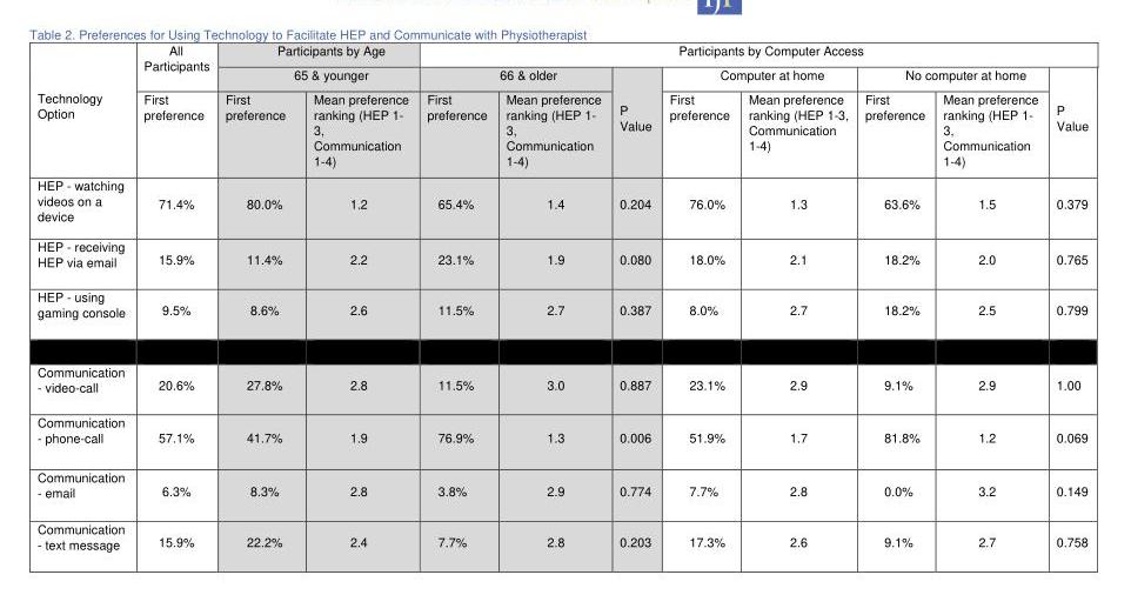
<table><thead><tr><td rowspan="3">Technology Option</td><td rowspan="3">All Participants First preference</td><td rowspan="2" colspan="2">Participants by Age 65 &amp; younger</td><td colspan="8">Participants by Computer Access</td></tr><tr><td colspan="2">66 &amp; older</td><td rowspan="2">P Value</td><td colspan="2">Computer at home</td><td colspan="2">No computer at home</td><td rowspan="2">P Value</td></tr><tr><td>First preference</td><td>Mean preference ranking (HEP 1- 3, Communication 1-4)</td><td>First preference</td><td>Mean preference ranking (HEP 1- 3, Communication 1-4)</td><td>First preference</td><td>Mean preference ranking (HEP 1-3, Communication 1-4)</td><td>First preference</td><td>Mean preference ranking (HEP 1- 3, Communication 1-4)</td></tr></thead><tbody><tr><td>HEP - watching videos on a device</td><td>71.4%</td><td>80.0%</td><td>1.2</td><td>65.4%</td><td>1.4</td><td>0.204</td><td>76.0%</td><td>1.3</td><td>63.6%</td><td>1.5</td><td>0.379</td></tr><tr><td>HEP - receiving HEP via email</td><td>15.9%</td><td>11.4%</td><td>2.2</td><td>23.1%</td><td>1.9</td><td>0.080</td><td>18.0%</td><td>2.1</td><td>18.2%</td><td>2.0</td><td>0.765</td></tr><tr><td>HEP - using gaming console</td><td>9.5%</td><td>8.6%</td><td>2.6</td><td>11.5%</td><td>2.7</td><td>0.387</td><td>8.0%</td><td>2.7</td><td>18.2%</td><td>2.5</td><td>0.799</td></tr><tr><td>Communication - video-call</td><td>20.6%</td><td>27.8%</td><td>2.8</td><td>11.5%</td><td>3.0</td><td>0.887</td><td>23.1%</td><td>2.9</td><td>9.1%</td><td>2.9</td><td>1.00</td></tr><tr><td>Communication - phone-call</td><td>57.1%</td><td>41.7%</td><td>1.9</td><td>76.9%</td><td>1.3</td><td>0.006</td><td>51.9%</td><td>1.7</td><td>81.8%</td><td>1.2</td><td>0.069</td></tr><tr><td>Communication - email</td><td>6.3%</td><td>8.3%</td><td>2.8</td><td>3.8%</td><td>2.9</td><td>0.774</td><td>7.7%</td><td>2.8</td><td>0.0%</td><td>3.2</td><td>0.149</td></tr><tr><td>Communication - text message</td><td>15.9%</td><td>22.2%</td><td>2.4</td><td>7.7%</td><td>2.8</td><td>0.203</td><td>17.3%</td><td>2.6</td><td>9.1%</td><td>2.7</td><td>0.758</td></tr></tbody></table>